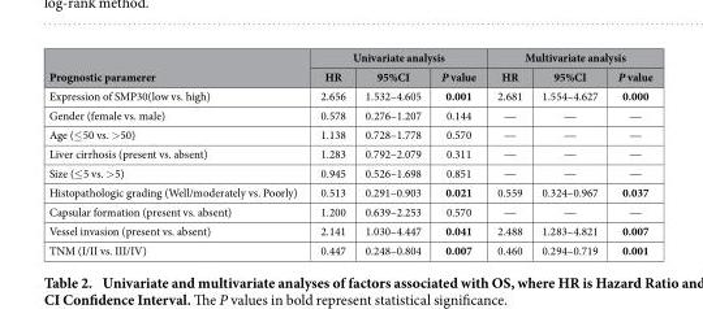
<table><thead><tr><td rowspan="2">Prognostic paramerer</td><td colspan="3">Univariate analysis</td><td colspan="3">Multivariate analysis</td></tr><tr><td>HR</td><td>95%CI</td><td>P value</td><td>HR</td><td>95%CI</td><td>P value</td></tr></thead><tbody><tr><td>Expression of SMP30(low vs. high)</td><td>2.656</td><td>1.532–4.605</td><td>0.001</td><td>2.681</td><td>1.554–4.627</td><td>0.000</td></tr><tr><td>Gender (female vs. male)</td><td>0.578</td><td>0.276–1.207</td><td>0.144</td><td>—</td><td>—</td><td>—</td></tr><tr><td>Age (≤50 vs. &gt;50)</td><td>1.138</td><td>0.728–1.778</td><td>0.570</td><td>—</td><td>—</td><td>—</td></tr><tr><td>Liver cirrhosis (present vs. absent)</td><td>1.283</td><td>0.792–2.079</td><td>0.311</td><td>—</td><td>—</td><td>—</td></tr><tr><td>Size (≤5 vs. &gt;5)</td><td>0.945</td><td>0.526–1.698</td><td>0.851</td><td>—</td><td>—</td><td>—</td></tr><tr><td>Histopathologic grading (Well/moderately vs. Poorly)</td><td>0.513</td><td>0.291–0.903</td><td>0.021</td><td>0.559</td><td>0.324–0.967</td><td>0.037</td></tr><tr><td>Capsular formation (present vs. absent)</td><td>1.200</td><td>0.639–2.253</td><td>0.570</td><td>—</td><td>—</td><td>—</td></tr><tr><td>Vessel invasion (present vs. absent)</td><td>2.141</td><td>1.030–4.447</td><td>0.041</td><td>2.488</td><td>1.283–4.821</td><td>0.007</td></tr><tr><td>TNM (I/II vs. III/IV)</td><td>0.447</td><td>0.248–0.804</td><td>0.007</td><td>0.460</td><td>0.294–0.719</td><td>0.001</td></tr></tbody></table>